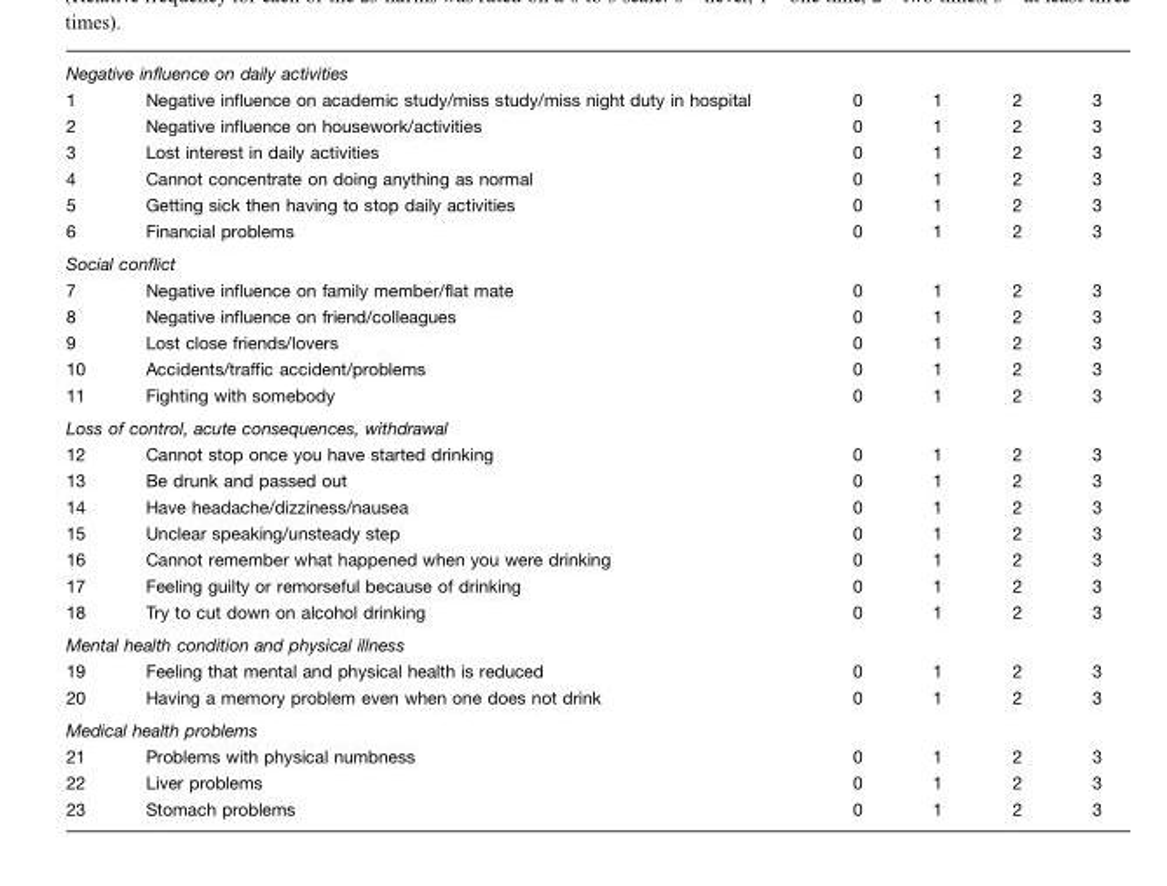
<table><tbody><tr><td colspan="6">Negative influence on daily activities</td></tr><tr><td>1</td><td>Negative influence on academic study/miss study/miss night duty in hospital</td><td>0</td><td>1</td><td>2</td><td>3</td></tr><tr><td>2</td><td>Negative influence on housework/activities</td><td>0</td><td>1</td><td>2</td><td>3</td></tr><tr><td>3</td><td>Lost interest in daily activities</td><td>0</td><td>1</td><td>2</td><td>3</td></tr><tr><td>4</td><td>Cannot concentrate on doing anything as normal</td><td>0</td><td>1</td><td>2</td><td>3</td></tr><tr><td>5</td><td>Getting sick then having to stop daily activities</td><td>0</td><td>1</td><td>2</td><td>3</td></tr><tr><td>6</td><td>Financial problems</td><td>0</td><td>1</td><td>2</td><td>3</td></tr><tr><td colspan="6">Social conflict</td></tr><tr><td>7</td><td>Negative influence on family member/flat mate</td><td>0</td><td>1</td><td>2</td><td>3</td></tr><tr><td>8</td><td>Negative influence on friend/colleagues</td><td>0</td><td>1</td><td>2</td><td>3</td></tr><tr><td>9</td><td>Lost close friends/lovers</td><td>0</td><td>1</td><td>2</td><td>3</td></tr><tr><td>10</td><td>Accidents/traffic accident/problems</td><td>0</td><td>1</td><td>2</td><td>3</td></tr><tr><td>11</td><td>Fighting with somebody</td><td>0</td><td>1</td><td>2</td><td>3</td></tr><tr><td colspan="6">Loss of control, acute consequences, withdrawal</td></tr><tr><td>12</td><td>Cannot stop once you have started drinking</td><td>0</td><td>1</td><td>2</td><td>3</td></tr><tr><td>13</td><td>Be drunk and passed out</td><td>0</td><td>1</td><td>2</td><td>3</td></tr><tr><td>14</td><td>Have headache/dizziness/nausea</td><td>0</td><td>1</td><td>2</td><td>3</td></tr><tr><td>15</td><td>Unclear speaking/unsteady step</td><td>0</td><td>1</td><td>2</td><td>3</td></tr><tr><td>16</td><td>Cannot remember what happened when you were drinking</td><td>0</td><td>1</td><td>2</td><td>3</td></tr><tr><td>17</td><td>Feeling guilty or remorseful because of drinking</td><td>0</td><td>1</td><td>2</td><td>3</td></tr><tr><td>18</td><td>Try to cut down on alcohol drinking</td><td>0</td><td>1</td><td>2</td><td>3</td></tr><tr><td colspan="6">Mental health condition and physical illness</td></tr><tr><td>19</td><td>Feeling that mental and physical health is reduced</td><td>0</td><td>1</td><td>2</td><td>3</td></tr><tr><td>20</td><td>Having a memory problem even when one does not drink</td><td>0</td><td>1</td><td>2</td><td>3</td></tr><tr><td colspan="6">Medical health problems</td></tr><tr><td>21</td><td>Problems with physical numbness</td><td>0</td><td>1</td><td>2</td><td>3</td></tr><tr><td>22</td><td>Liver problems</td><td>0</td><td>1</td><td>2</td><td>3</td></tr><tr><td>23</td><td>Stomach problems</td><td>0</td><td>1</td><td>2</td><td>3</td></tr></tbody></table>